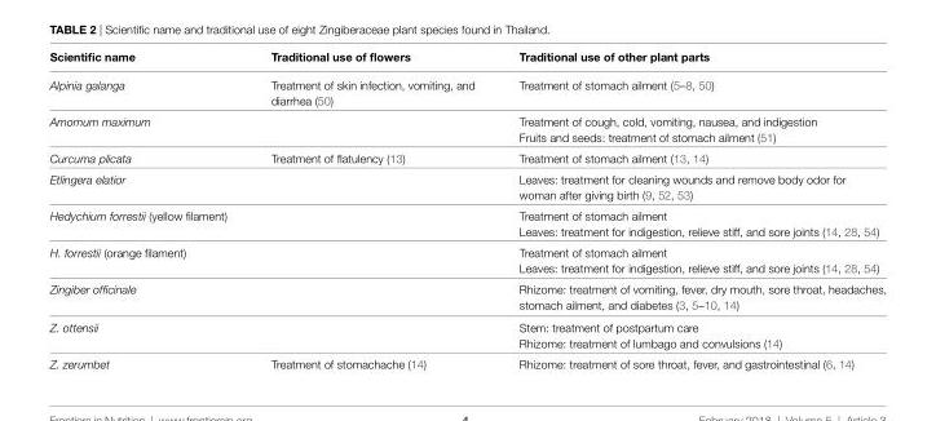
<table><thead><tr><td>scientific name</td><td>Traditional use of flowers</td><td>Traditional use of other plant parts</td></tr></thead><tbody><tr><td>Alpinia galanga</td><td>Treatment of skin infection, vomiting, and diarrhea (50)</td><td>Treatment of stomach ailment (5–8, 50)</td></tr><tr><td rowspan="2">Amomum maximum</td><td rowspan="2"></td><td>Treatment of cough, cold, vomiting, nausea, and indigestion</td></tr><tr><td>Fruits and seeds: treatment of stomach ailment (51)</td></tr><tr><td>Curcuma plicata</td><td>Treatment of flatulency (13)</td><td>Treatment of stomach ailment (13, 14)</td></tr><tr><td>Etlingera elatior</td><td></td><td>Leaves: treatment for cleaning wounds and remove body odor for woman after giving birth (9, 52, 53)</td></tr><tr><td rowspan="2">Hedychium forrestii (yellow filament)</td><td></td><td>Treatment of stomach ailment</td></tr><tr><td></td><td>Leaves: treatment for indigestion, relieve stiff, and sore joints (14, 28, 54)</td></tr><tr><td rowspan="2">H. forrestii (orange filament)</td><td></td><td>Treatment of stomach ailment</td></tr><tr><td></td><td>Leaves: treatment for indigestion, relieve stiff, and sore joints (14, 28, 54)</td></tr><tr><td>Zingiber officinale</td><td></td><td>Rhizome: treatment of vomiting, fever, dry mouth, sore throat, headaches, stomach ailment, and diabetes (3, 5–10, 14)</td></tr><tr><td rowspan="2">Z. ottensii</td><td></td><td>Stem: treatment of postpartum care</td></tr><tr><td></td><td>Rhizome: treatment of lumbago and convulsions (14)</td></tr><tr><td>Z. zerumbet</td><td>Treatment of stomachache (14)</td><td>Rhizome: treatment of sore throat, fever, and gastrointestinal (6, 14)</td></tr></tbody></table>